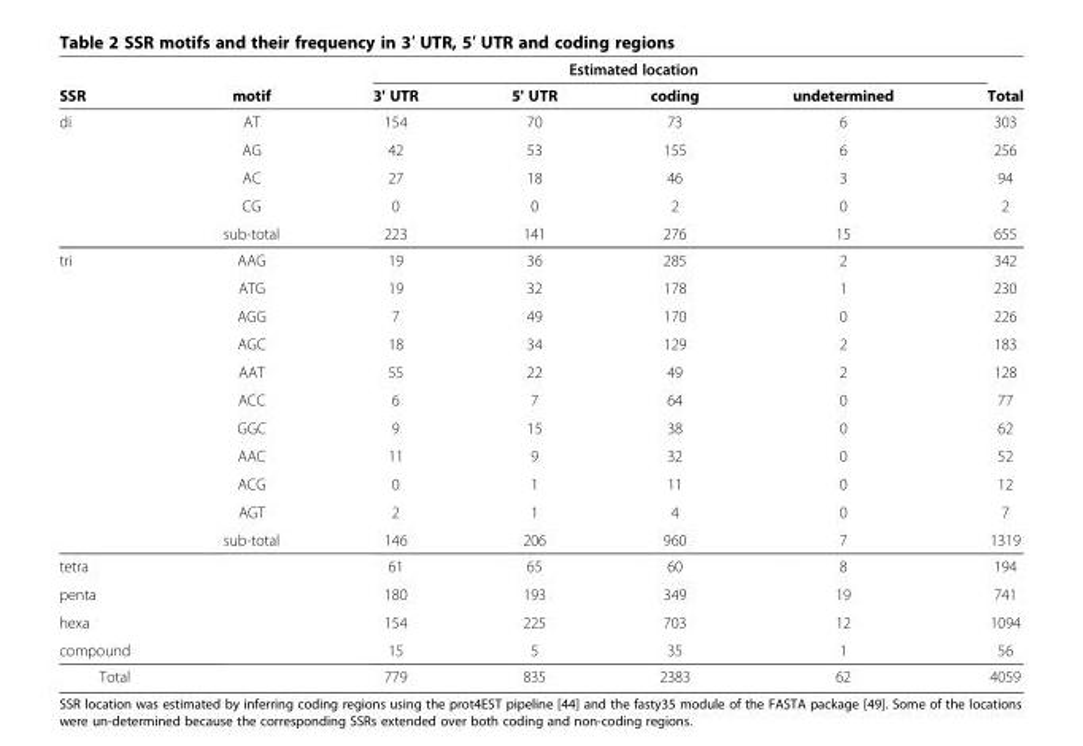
<table><thead><tr><td rowspan="2">SSR</td><td rowspan="2">motif</td><td colspan="4">Estimated location</td><td rowspan="2">Total</td></tr><tr><td>3&#x27; UTR</td><td>5&#x27; UTR</td><td>coding</td><td>undetermined</td></tr></thead><tbody><tr><td rowspan="5">di</td><td>AT</td><td>154</td><td>70</td><td>73</td><td>6</td><td>303</td></tr><tr><td>AG</td><td>42</td><td>53</td><td>155</td><td>6</td><td>256</td></tr><tr><td>AC</td><td>27</td><td>18</td><td>46</td><td>3</td><td>94</td></tr><tr><td>CG</td><td>0</td><td>0</td><td>2</td><td>0</td><td>2</td></tr><tr><td>sub-total</td><td>223</td><td>141</td><td>276</td><td>15</td><td>655</td></tr><tr><td rowspan="11">tri</td><td>AAG</td><td>19</td><td>36</td><td>285</td><td>2</td><td>342</td></tr><tr><td>ATG</td><td>19</td><td>32</td><td>178</td><td>1</td><td>230</td></tr><tr><td>AGG</td><td>7</td><td>49</td><td>170</td><td>0</td><td>226</td></tr><tr><td>AGC</td><td>18</td><td>34</td><td>129</td><td>2</td><td>183</td></tr><tr><td>AAT</td><td>55</td><td>22</td><td>49</td><td>2</td><td>128</td></tr><tr><td>ACC</td><td>6</td><td>7</td><td>64</td><td>0</td><td>77</td></tr><tr><td>GGC</td><td>9</td><td>15</td><td>38</td><td>0</td><td>62</td></tr><tr><td>AAC</td><td>11</td><td>9</td><td>32</td><td>0</td><td>52</td></tr><tr><td>ACG</td><td>0</td><td>1</td><td>11</td><td>0</td><td>12</td></tr><tr><td>AGT</td><td>2</td><td>1</td><td>4</td><td>0</td><td>7</td></tr><tr><td>sub-total</td><td>146</td><td>206</td><td>960</td><td>7</td><td>1319</td></tr><tr><td>tetra</td><td></td><td>61</td><td>65</td><td>60</td><td>8</td><td>194</td></tr><tr><td>penta</td><td></td><td>180</td><td>193</td><td>349</td><td>19</td><td>741</td></tr><tr><td>hexa</td><td></td><td>154</td><td>225</td><td>703</td><td>12</td><td>1094</td></tr><tr><td>compound</td><td></td><td>15</td><td>5</td><td>35</td><td>1</td><td>56</td></tr><tr><td>Total</td><td></td><td>779</td><td>835</td><td>2383</td><td>62</td><td>4059</td></tr></tbody></table>